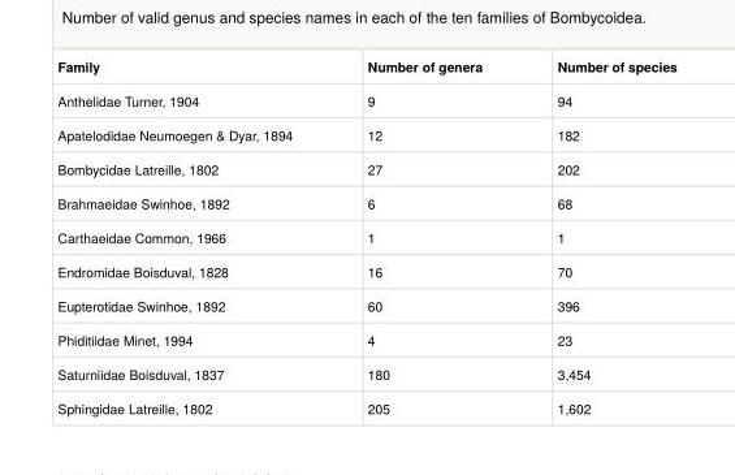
<table><thead><tr><td>Family</td><td>Number of genera</td><td>Number of species</td></tr></thead><tbody><tr><td>Anthelidae Turner, 1904</td><td>9</td><td>94</td></tr><tr><td>Apatelodidae Neumoegen &amp; Dyar, 1894</td><td>12</td><td>182</td></tr><tr><td>Bombycidae Latreille, 1802</td><td>27</td><td>202</td></tr><tr><td>Brahmaeidae Swinhoe, 1892</td><td>6</td><td>68</td></tr><tr><td>Carthaeidae Common, 1966</td><td>1</td><td>1</td></tr><tr><td>Endromidae Boisduval, 1828</td><td>16</td><td>70</td></tr><tr><td>Eupterotidae Swinhoe, 1892</td><td>60</td><td>396</td></tr><tr><td>Phiditiidae Minet, 1994</td><td>4</td><td>23</td></tr><tr><td>Saturniidae Boisduval, 1837</td><td>180</td><td>3,454</td></tr><tr><td>Sphingidae Latreille, 1802</td><td>205</td><td>1,602</td></tr></tbody></table>